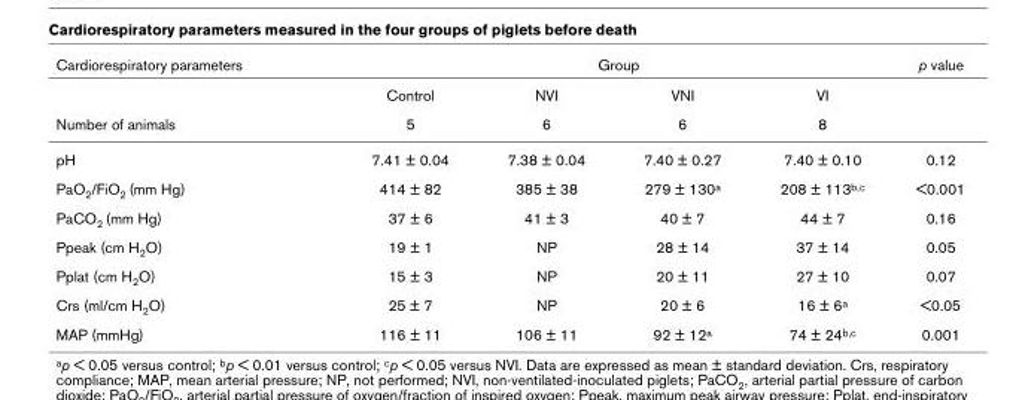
<table><thead><tr><td rowspan="2">Cardiorespiratory parameters</td><td colspan="4">Group</td><td rowspan="2">p value</td></tr><tr><td>Control</td><td>NVI</td><td>VNI</td><td>VI</td></tr></thead><tbody><tr><td>Number of animals</td><td>5</td><td>6</td><td>6</td><td>8</td><td></td></tr><tr><td>pH</td><td>7.41 ± 0.04</td><td>7.38 ± 0.04</td><td>7.40 ± 0.27</td><td>7.40 ± 0.10</td><td>0.12</td></tr><tr><td>PaO<sub>2</sub>/FiO<sub>2</sub> (mm Hg)</td><td>414 ± 82</td><td>385 ± 38</td><td>279 ± 130<sup>a</sup></td><td>208 ± 113<sup>b,c</sup></td><td>&lt;0.001</td></tr><tr><td>PaCO<sub>2</sub> (mm Hg)</td><td>37 ± 6</td><td>41 ± 3</td><td>40 ± 7</td><td>44 ± 7</td><td>0.16</td></tr><tr><td>Ppeak (cm H<sub>2</sub>O)</td><td>19 ± 1</td><td>NP</td><td>28 ± 14</td><td>37 ± 14</td><td>0.05</td></tr><tr><td>Pplat (cm H<sub>2</sub>O)</td><td>15 ± 3</td><td>NP</td><td>20 ± 11</td><td>27 ± 10</td><td>0.07</td></tr><tr><td>Crs (ml/cm H<sub>2</sub>O)</td><td>25 ± 7</td><td>NP</td><td>20 ± 6</td><td>16 ± 6<sup>a</sup></td><td>&lt;0.05</td></tr><tr><td>MAP (mmHg)</td><td>116 ± 11</td><td>106 ± 11</td><td>92 ± 12<sup>a</sup></td><td>74 ± 24<sup>b,c</sup></td><td>0.001</td></tr></tbody></table>